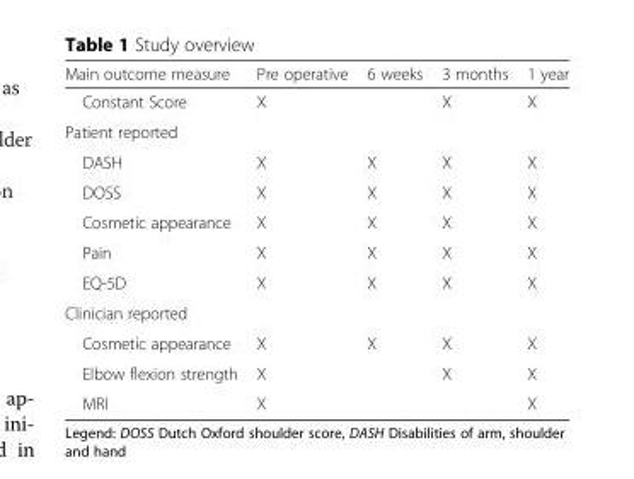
<table><thead><tr><td>Main outcome measure</td><td>Pre operative</td><td>6 weeks</td><td>3 months</td><td>1 year</td></tr></thead><tbody><tr><td>Constant Score</td><td>X</td><td></td><td>X</td><td>X</td></tr><tr><td colspan="5">Patient reported</td></tr><tr><td>DASH</td><td>X</td><td>X</td><td>X</td><td>X</td></tr><tr><td>DOSS</td><td>X</td><td>X</td><td>X</td><td>X</td></tr><tr><td>Cosmetic appearance</td><td>X</td><td>X</td><td>X</td><td>X</td></tr><tr><td>Pain</td><td>X</td><td>X</td><td>X</td><td>X</td></tr><tr><td>EQ-5D</td><td>X</td><td>X</td><td>X</td><td>X</td></tr><tr><td colspan="5">Clinician reported</td></tr><tr><td>Cosmetic appearance</td><td>X</td><td>X</td><td>X</td><td>X</td></tr><tr><td>Elbow flexion strength</td><td>X</td><td></td><td>X</td><td>X</td></tr><tr><td>MRI</td><td>X</td><td></td><td></td><td>X</td></tr></tbody></table>